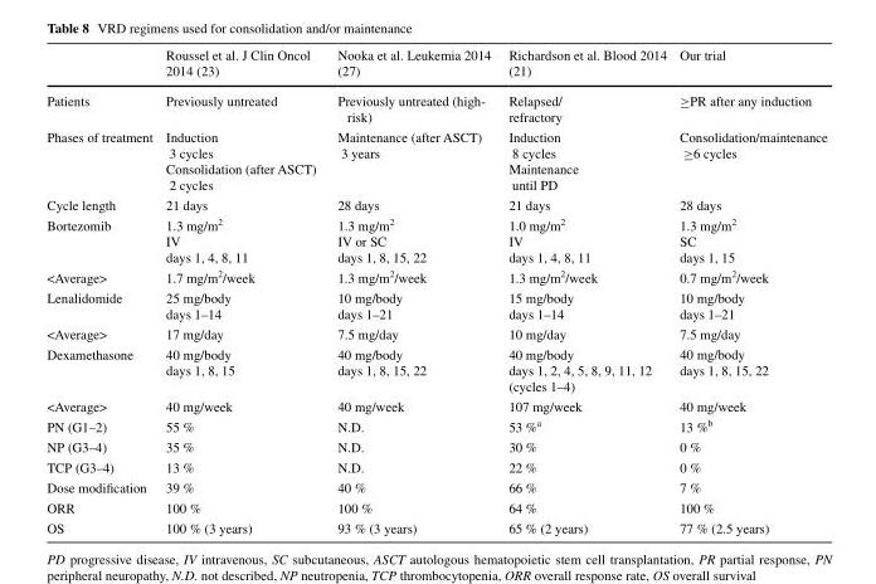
<table><thead><tr><td></td><td>Roussel et al. J Clin Oncol 2014 (23)</td><td>Nooka et al. Leukemia 2014 (27)</td><td>Richardson et al. Blood 2014 (21)</td><td>Our trial</td></tr></thead><tbody><tr><td>Patients</td><td>Previously untreated</td><td>Previously untreated (high- risk)</td><td>Relapsed/ refractory</td><td>≥PR after any induction</td></tr><tr><td>Phases of treatment</td><td>Induction 3 cycles Consolidation (after ASCT) 2 cycles</td><td>Maintenance (after ASCT) 3 years</td><td>Induction 8 cycles Maintenance until PD</td><td>Consolidation/maintenance ≥6 cycles</td></tr><tr><td>Cycle length</td><td>21 days</td><td>28 days</td><td>21 days</td><td>28 days</td></tr><tr><td>Bortezomib</td><td>1.3 mg/m<sup>2</sup> IV days 1, 4, 8, 11</td><td>1.3 mg/m<sup>2</sup> IV or SC days 1, 8, 15, 22</td><td>1.0 mg/m<sup>2</sup> IV days 1, 4, 8, 11</td><td>1.3 mg/m<sup>2</sup> SC days 1, 15</td></tr><tr><td>&lt;Average&gt;</td><td>1.7 mg/m<sup>2</sup>/week</td><td>1.3 mg/m<sup>2</sup>/week</td><td>1.3 mg/m<sup>2</sup>/week</td><td>0.7 mg/m<sup>2</sup>/week</td></tr><tr><td>Lenalidomide</td><td>25 mg/body days 1–14</td><td>10 mg/body days 1–21</td><td>15 mg/body days 1–14</td><td>10 mg/body days 1–21</td></tr><tr><td>&lt;Average&gt;</td><td>17 mg/day</td><td>7.5 mg/day</td><td>10 mg/day</td><td>7.5 mg/day</td></tr><tr><td>Dexamethasone</td><td>40 mg/body days 1, 8, 15</td><td>40 mg/body days 1, 8, 15, 22</td><td>40 mg/body days 1, 2, 4, 5, 8, 9, 11, 12 (cycles 1–4)</td><td>40 mg/body days 1, 8, 15, 22</td></tr><tr><td>&lt;Average&gt;</td><td>40 mg/week</td><td>40 mg/week</td><td>107 mg/week</td><td>40 mg/week</td></tr><tr><td>PN (G1–2)</td><td>55 %</td><td>N.D.</td><td>53 %<sup>a</sup></td><td>13 %<sup>b</sup></td></tr><tr><td>NP (G3–4)</td><td>35 %</td><td>N.D.</td><td>30 %</td><td>0 %</td></tr><tr><td>TCP (G3–4)</td><td>13 %</td><td>N.D.</td><td>22 %</td><td>0 %</td></tr><tr><td>Dose modification</td><td>39 %</td><td>40 %</td><td>66 %</td><td>7 %</td></tr><tr><td>ORR</td><td>100 %</td><td>100 %</td><td>64 %</td><td>100 %</td></tr><tr><td>OS</td><td>100 % (3 years)</td><td>93 % (3 years)</td><td>65 % (2 years)</td><td>77 % (2.5 years)</td></tr></tbody></table>